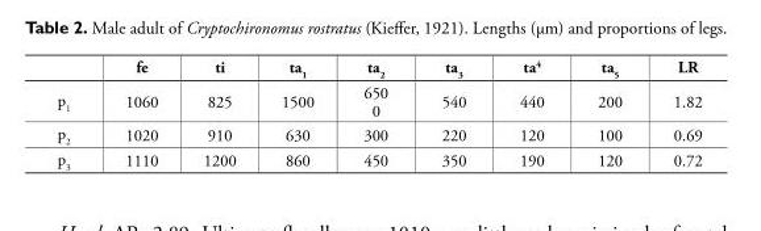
<table><thead><tr><td></td><td>fe</td><td>ti</td><td>ta<sub>1</sub></td><td>ta<sub>2</sub></td><td>ta<sub>3</sub></td><td>ta<sup>4</sup></td><td>ta<sub>5</sub></td><td>LR</td></tr></thead><tbody><tr><td>p<sub>1</sub></td><td>1060</td><td>825</td><td>1500</td><td>650 0</td><td>540</td><td>440</td><td>200</td><td>1.82</td></tr><tr><td>p<sub>2</sub></td><td>1020</td><td>910</td><td>630</td><td>300</td><td>220</td><td>120</td><td>100</td><td>0.69</td></tr><tr><td>p<sub>3</sub></td><td>1110</td><td>1200</td><td>860</td><td>450</td><td>350</td><td>190</td><td>120</td><td>0.72</td></tr></tbody></table>